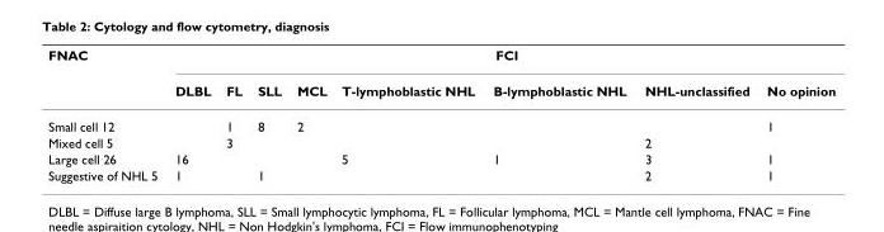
<table><thead><tr><td rowspan="2">FNAC</td><td colspan="8">FCI</td></tr><tr><td>DLBL</td><td>FL</td><td>SLL</td><td>MCL</td><td>T-lymphoblastic NHL</td><td>B-lymphoblastic NHL</td><td>NHL-unclassified</td><td>No opinion</td></tr></thead><tbody><tr><td>Small cell 12</td><td></td><td>1</td><td>8</td><td>2</td><td></td><td></td><td></td><td>1</td></tr><tr><td>Mixed cell 5</td><td></td><td>3</td><td></td><td></td><td></td><td></td><td>2</td><td></td></tr><tr><td>Large cell 26</td><td>16</td><td></td><td></td><td></td><td>5</td><td>1</td><td>3</td><td>1</td></tr><tr><td>Suggestive of NHL 5</td><td>1</td><td></td><td>1</td><td></td><td></td><td></td><td>2</td><td>1</td></tr></tbody></table>